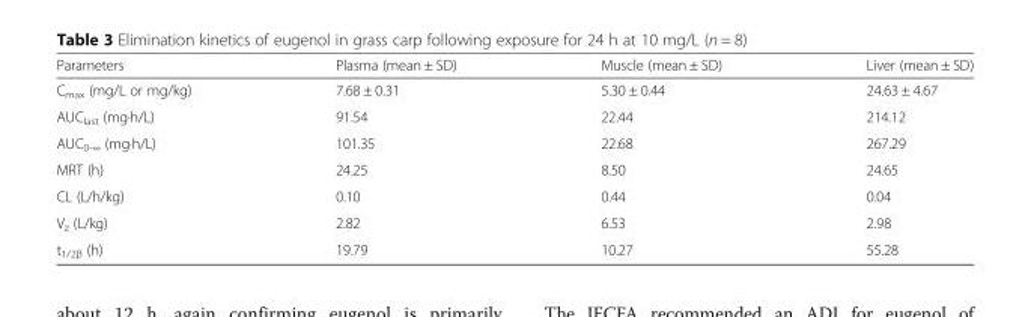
<table><thead><tr><td>Parameters</td><td>Plasma (mean ± SD)</td><td>Muscle (mean ± SD)</td><td>Liver (mean ± SD)</td></tr></thead><tbody><tr><td>C<sub>max</sub> (mg/L or mg/kg)</td><td>7.68 ± 0.31</td><td>5.30 ± 0.44</td><td>24.63 ± 4.67</td></tr><tr><td>AUC<sub>last</sub> (mg·h/L)</td><td>91.54</td><td>22.44</td><td>214.12</td></tr><tr><td>AUC<sub>0-∞</sub> (mg·h/L)</td><td>101.35</td><td>22.68</td><td>267.29</td></tr><tr><td>MRT (h)</td><td>24.25</td><td>8.50</td><td>24.65</td></tr><tr><td>CL (L/h/kg)</td><td>0.10</td><td>0.44</td><td>0.04</td></tr><tr><td>V<sub>z</sub> (L/kg)</td><td>2.82</td><td>6.53</td><td>2.98</td></tr><tr><td>t<sub>1/2β</sub> (h)</td><td>19.79</td><td>10.27</td><td>55.28</td></tr></tbody></table>